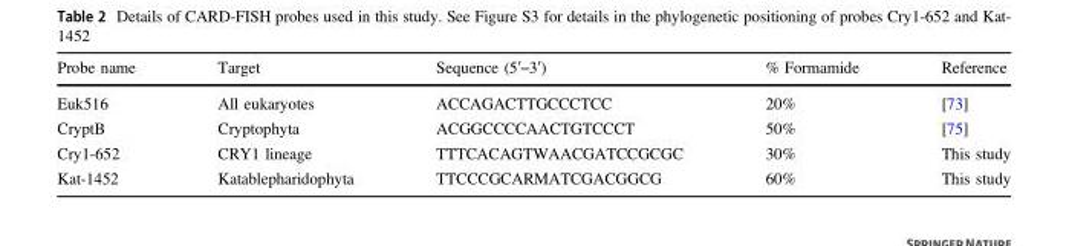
<table><thead><tr><td>Probe name</td><td>Target</td><td>Sequence (5′–3′)</td><td>% Formamide</td><td>Reference</td></tr></thead><tbody><tr><td>Euk516</td><td>All eukaryotes</td><td>ACCAGACTTGCCCTCC</td><td>20%</td><td>[73]</td></tr><tr><td>CryptB</td><td>Cryptophyta</td><td>ACGGCCCCAACTGTCCCT</td><td>50%</td><td>[75]</td></tr><tr><td>Cry1-652</td><td>CRY1 lineage</td><td>TTTCACAGTWAACGATCCGCGC</td><td>30%</td><td>This study</td></tr><tr><td>Kat-1452</td><td>Katablepharidophyta</td><td>TTCCCGCARMATCGACGGCG</td><td>60%</td><td>This study</td></tr></tbody></table>